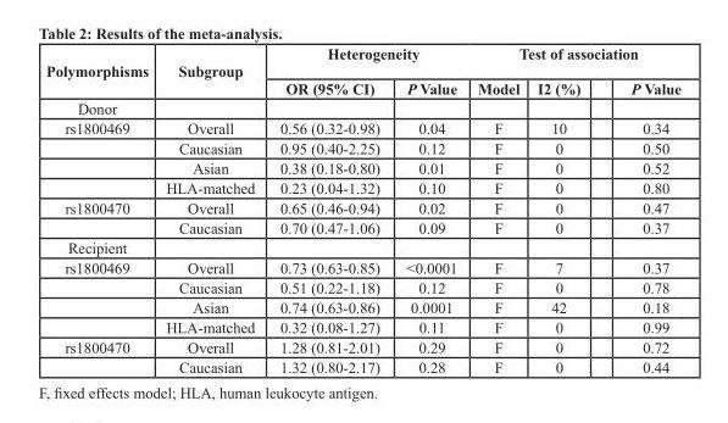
<table><thead><tr><td rowspan="2">Polymorphisms</td><td rowspan="2">Subgroup</td><td colspan="2">Heterogeneity</td><td colspan="3">Test of association</td></tr><tr><td>OR (95% CI)</td><td>P Value</td><td>Model</td><td>I2 (%)</td><td>P Value</td></tr></thead><tbody><tr><td colspan="7">Donor</td></tr><tr><td rowspan="4">rs1800469</td><td>Overall</td><td>0.56 (0.32-0.98)</td><td>0.04</td><td>F</td><td>10</td><td>0.34</td></tr><tr><td>Caucasian</td><td>0.95 (0.40-2.25)</td><td>0.12</td><td>F</td><td>0</td><td>0.50</td></tr><tr><td>Asian</td><td>0.38 (0.18-0.80)</td><td>0.01</td><td>F</td><td>0</td><td>0.52</td></tr><tr><td>HLA-matched</td><td>0.23 (0.04-1.32)</td><td>0.10</td><td>F</td><td>0</td><td>0.80</td></tr><tr><td rowspan="2">rs1800470</td><td>Overall</td><td>0.65 (0.46-0.94)</td><td>0.02</td><td>F</td><td>0</td><td>0.47</td></tr><tr><td>Caucasian</td><td>0.70 (0.47-1.06)</td><td>0.09</td><td>F</td><td>0</td><td>0.37</td></tr><tr><td colspan="7">Recipient</td></tr><tr><td rowspan="4">rs1800469</td><td>Overall</td><td>0.73 (0.63-0.85)</td><td>&lt;0.0001</td><td>F</td><td>7</td><td>0.37</td></tr><tr><td>Caucasian</td><td>0.51 (0.22-1.18)</td><td>0.12</td><td>F</td><td>0</td><td>0.78</td></tr><tr><td>Asian</td><td>0.74 (0.63-0.86)</td><td>0.0001</td><td>F</td><td>42</td><td>0.18</td></tr><tr><td>HLA-matched</td><td>0.32 (0.08-1.27)</td><td>0.11</td><td>F</td><td>0</td><td>0.99</td></tr><tr><td rowspan="2">rs1800470</td><td>Overall</td><td>1.28 (0.81-2.01)</td><td>0.29</td><td>F</td><td>0</td><td>0.72</td></tr><tr><td>Caucasian</td><td>1.32 (0.80-2.17)</td><td>0.28</td><td>F</td><td>0</td><td>0.44</td></tr></tbody></table>